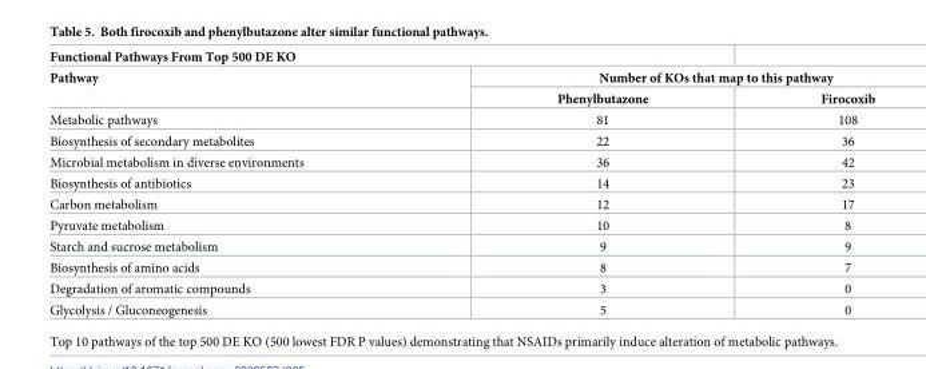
<table><thead><tr><td colspan="2">Functional Pathways From Top 500 DE KO</td><td></td></tr><tr><td rowspan="2">Pathway</td><td colspan="2">Number of KOs that map to this pathway</td></tr><tr><td>Phenylbutazone</td><td>Firocoxib</td></tr></thead><tbody><tr><td>Metabolic pathways</td><td>81</td><td>108</td></tr><tr><td>Biosynthesis of secondary metabolites</td><td>22</td><td>36</td></tr><tr><td>Microbial metabolism in diverse environments</td><td>36</td><td>42</td></tr><tr><td>Biosynthesis of antibiotics</td><td>14</td><td>23</td></tr><tr><td>Carbon metabolism</td><td>12</td><td>17</td></tr><tr><td>Pyruvate metabolism</td><td>10</td><td>8</td></tr><tr><td>Starch and sucrose metabolism</td><td>9</td><td>9</td></tr><tr><td>Biosynthesis of amino acids</td><td>8</td><td>7</td></tr><tr><td>Degradation of aromatic compounds</td><td>3</td><td>0</td></tr><tr><td>Glycolysis / Gluconeogenesis</td><td>5</td><td>0</td></tr></tbody></table>